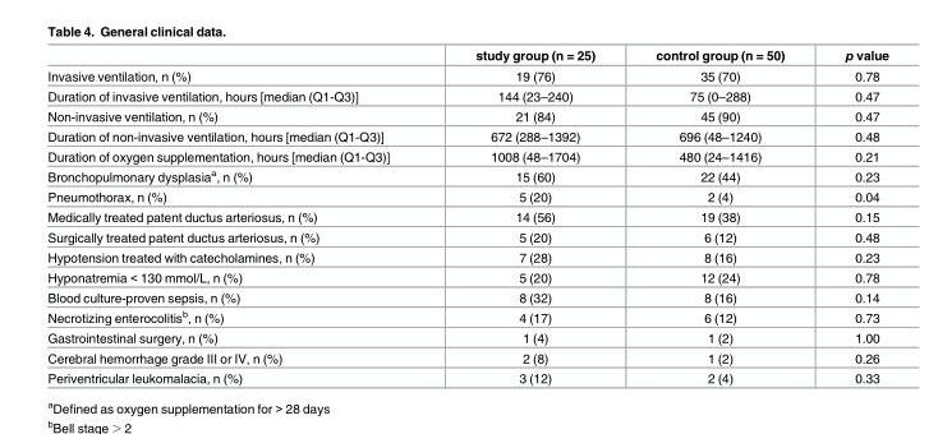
<table><thead><tr><td></td><td>study group (n = 25)</td><td>control group (n = 50)</td><td>p value</td></tr></thead><tbody><tr><td>Invasive ventilation, n (%)</td><td>19 (76)</td><td>35 (70)</td><td>0.78</td></tr><tr><td>Duration of invasive ventilation, hours [median (Q1-Q3)]</td><td>144 (23–240)</td><td>75 (0–288)</td><td>0.47</td></tr><tr><td>Non-invasive ventilation, n (%)</td><td>21 (84)</td><td>45 (90)</td><td>0.47</td></tr><tr><td>Duration of non-invasive ventilation, hours [median (Q1-Q3)]</td><td>672 (288–1392)</td><td>696 (48–1240)</td><td>0.48</td></tr><tr><td>Duration of oxygen supplementation, hours [median (Q1-Q3)]</td><td>1008 (48–1704)</td><td>480 (24–1416)</td><td>0.21</td></tr><tr><td>Bronchopulmonary dysplasia<sup>a</sup>, n (%)</td><td>15 (60)</td><td>22 (44)</td><td>0.23</td></tr><tr><td>Pneumothorax, n (%)</td><td>5 (20)</td><td>2 (4)</td><td>0.04</td></tr><tr><td>Medically treated patent ductus arteriosus, n (%)</td><td>14 (56)</td><td>19 (38)</td><td>0.15</td></tr><tr><td>Surgically treated patent ductus arteriosus, n (%)</td><td>5 (20)</td><td>6 (12)</td><td>0.48</td></tr><tr><td>Hypotension treated with catecholamines, n (%)</td><td>7 (28)</td><td>8 (16)</td><td>0.23</td></tr><tr><td>Hyponatremia &lt; 130 mmol/L, n (%)</td><td>5 (20)</td><td>12 (24)</td><td>0.78</td></tr><tr><td>Blood culture-proven sepsis, n (%)</td><td>8 (32)</td><td>8 (16)</td><td>0.14</td></tr><tr><td>Necrotizing enterocolitis<sup>b</sup>, n (%)</td><td>4 (17)</td><td>6 (12)</td><td>0.73</td></tr><tr><td>Gastrointestinal surgery, n (%)</td><td>1 (4)</td><td>1 (2)</td><td>1.00</td></tr><tr><td>Cerebral hemorrhage grade III or IV, n (%)</td><td>2 (8)</td><td>1 (2)</td><td>0.26</td></tr><tr><td>Periventricular leukomalacia, n (%)</td><td>3 (12)</td><td>2 (4)</td><td>0.33</td></tr></tbody></table>